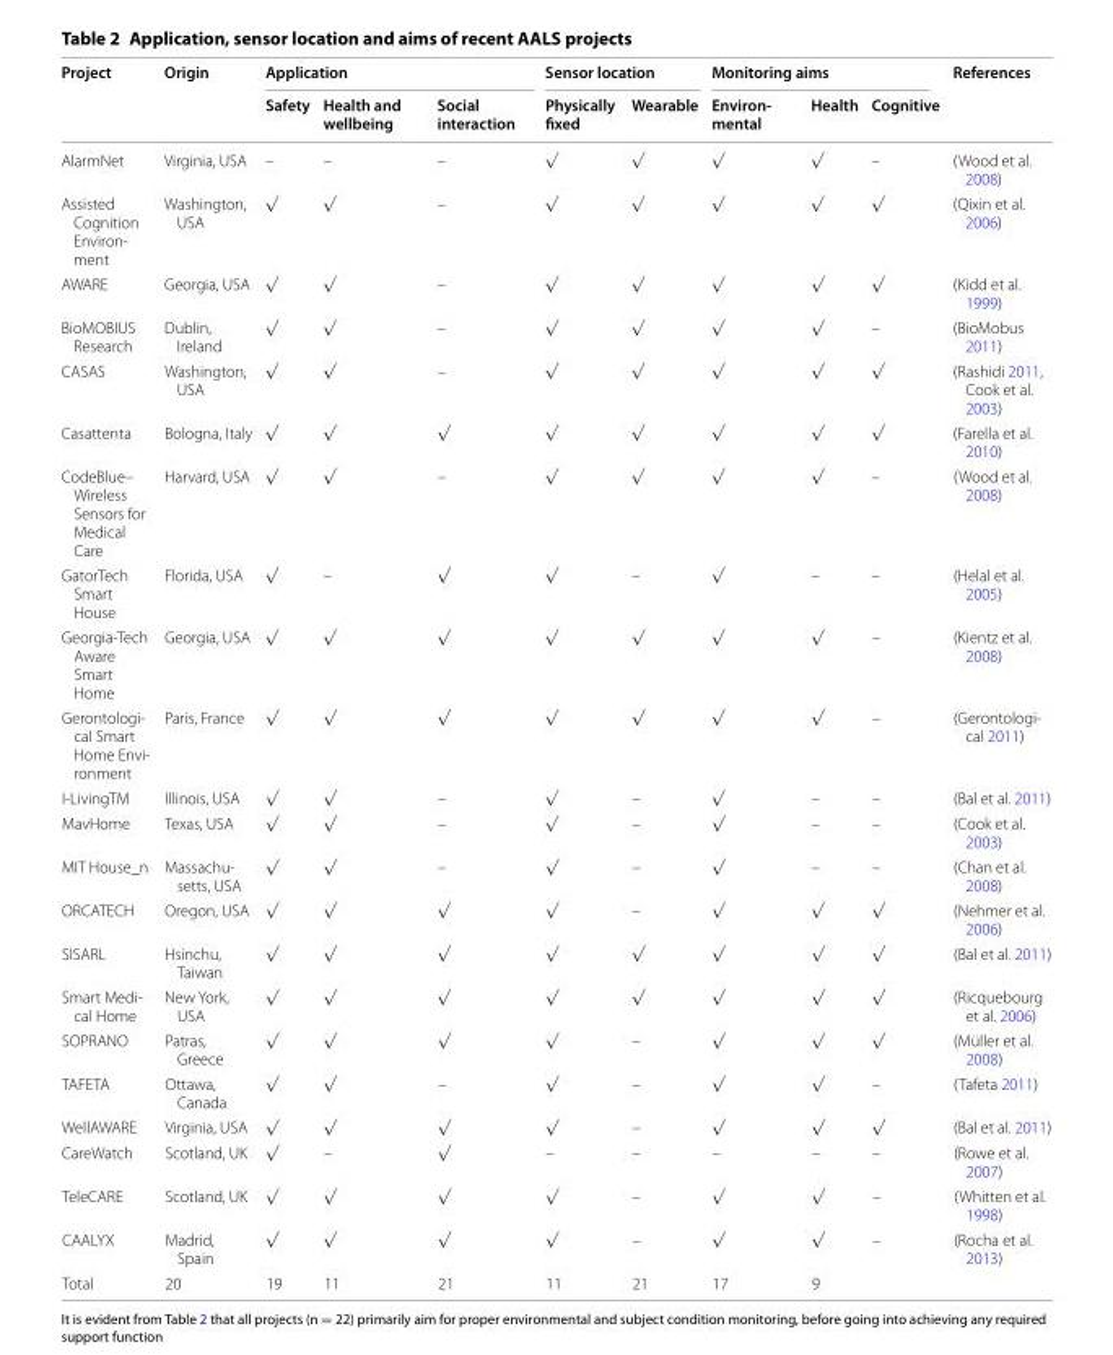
<table><thead><tr><td rowspan="2">Project</td><td rowspan="2">Origin</td><td colspan="3">Application</td><td colspan="2">Sensor location</td><td colspan="3">Monitoring aims</td><td rowspan="2">References</td></tr><tr><td>Safety</td><td>Health and wellbeing</td><td>Social interaction</td><td>Physically fixed</td><td>Wearable</td><td>Environ- mental</td><td>Health</td><td>Cognitive</td></tr></thead><tbody><tr><td>AlarmNet</td><td>Virginia, USA</td><td>–</td><td>–</td><td>–</td><td>√</td><td>√</td><td>√</td><td>√</td><td>–</td><td>(Wood et al. 2008)</td></tr><tr><td>Assisted Cognition Environ‑ ment</td><td>Washington, USA</td><td>√</td><td>√</td><td>–</td><td>√</td><td>√</td><td>√</td><td>√</td><td>√</td><td>(Qixin et al. 2006)</td></tr><tr><td>AWARE</td><td>Georgia, USA</td><td>√</td><td>√</td><td>–</td><td>√</td><td>√</td><td>√</td><td>√</td><td>√</td><td>(Kidd et al. 1999)</td></tr><tr><td>BioMOBIUS Research</td><td>Dublin, Ireland</td><td>√</td><td>√</td><td>–</td><td>√</td><td>√</td><td>√</td><td>√</td><td>–</td><td>(BioMobus 2011)</td></tr><tr><td>CASAS</td><td>Washington, USA</td><td>√</td><td>√</td><td>–</td><td>√</td><td>√</td><td>√</td><td>√</td><td>√</td><td>(Rashidi 2011, Cook et al. 2003)</td></tr><tr><td>Casattenta</td><td>Bologna, Italy</td><td>√</td><td>√</td><td>√</td><td>√</td><td>√</td><td>√</td><td>√</td><td>√</td><td>(Farella et al. 2010)</td></tr><tr><td>CodeBlue– Wireless Sensors for Medical Care</td><td>Harvard, USA</td><td>√</td><td>√</td><td>–</td><td>√</td><td>√</td><td>√</td><td>√</td><td>–</td><td>(Wood et al. 2008)</td></tr><tr><td>GatorTech Smart House</td><td>Florida, USA</td><td>√</td><td>–</td><td>√</td><td>√</td><td>–</td><td>√</td><td>–</td><td>–</td><td>(Helal et al. 2005)</td></tr><tr><td>Georgia‑Tech Aware Smart Home</td><td>Georgia, USA</td><td>√</td><td>√</td><td>√</td><td>√</td><td>√</td><td>√</td><td>√</td><td>–</td><td>(Kientz et al. 2008)</td></tr><tr><td>Gerontologi‑ cal Smart Home Envi‑ ronment</td><td>Paris, France</td><td>√</td><td>√</td><td>√</td><td>√</td><td>√</td><td>√</td><td>√</td><td>–</td><td>(Gerontologi‑ cal 2011)</td></tr><tr><td>I‑LivingTM</td><td>Illinois, USA</td><td>√</td><td>√</td><td>–</td><td>√</td><td>–</td><td>√</td><td>–</td><td>–</td><td>(Bal et al. 2011)</td></tr><tr><td>MavHome</td><td>Texas, USA</td><td>√</td><td>√</td><td>–</td><td>√</td><td>–</td><td>√</td><td>–</td><td>–</td><td>(Cook et al. 2003)</td></tr><tr><td>MIT House_n</td><td>Massachu‑ setts, USA</td><td>√</td><td>√</td><td>–</td><td>√</td><td>–</td><td>√</td><td>–</td><td>–</td><td>(Chan et al. 2008)</td></tr><tr><td>ORCATECH</td><td>Oregon, USA</td><td>√</td><td>√</td><td>√</td><td>√</td><td>–</td><td>√</td><td>√</td><td>√</td><td>(Nehmer et al. 2006)</td></tr><tr><td>SISARL</td><td>Hsinchu, Taiwan</td><td>√</td><td>√</td><td>√</td><td>√</td><td>√</td><td>√</td><td>√</td><td>√</td><td>(Bal et al. 2011)</td></tr><tr><td>Smart Medi‑ cal Home</td><td>New York, USA</td><td>√</td><td>√</td><td>√</td><td>√</td><td>√</td><td>√</td><td>√</td><td>√</td><td>(Ricquebourg et al. 2006)</td></tr><tr><td>SOPRANO</td><td>Patras, Greece</td><td>√</td><td>√</td><td>√</td><td>√</td><td>–</td><td>√</td><td>√</td><td>√</td><td>(Müller et al. 2008)</td></tr><tr><td>TAFETA</td><td>Ottawa, Canada</td><td>√</td><td>√</td><td>–</td><td>√</td><td>–</td><td>√</td><td>√</td><td>–</td><td>(Tafeta 2011)</td></tr><tr><td>WellAWARE</td><td>Virginia, USA</td><td>√</td><td>√</td><td>√</td><td>√</td><td>–</td><td>√</td><td>√</td><td>√</td><td>(Bal et al. 2011)</td></tr><tr><td>CareWatch</td><td>Scotland, UK</td><td>√</td><td>–</td><td>√</td><td>–</td><td>–</td><td>–</td><td>–</td><td>–</td><td>(Rowe et al. 2007)</td></tr><tr><td>TeleCARE</td><td>Scotland, UK</td><td>√</td><td>√</td><td>√</td><td>√</td><td>–</td><td>√</td><td>√</td><td>–</td><td>(Whitten et al. 1998)</td></tr><tr><td>CAALYX</td><td>Madrid, Spain</td><td>√</td><td>√</td><td>√</td><td>√</td><td>–</td><td>√</td><td>√</td><td>–</td><td>(Rocha et al. 2013)</td></tr><tr><td>Total</td><td>20</td><td>19</td><td>11</td><td>21</td><td>11</td><td>21</td><td>17</td><td>9</td><td></td><td></td></tr></tbody></table>